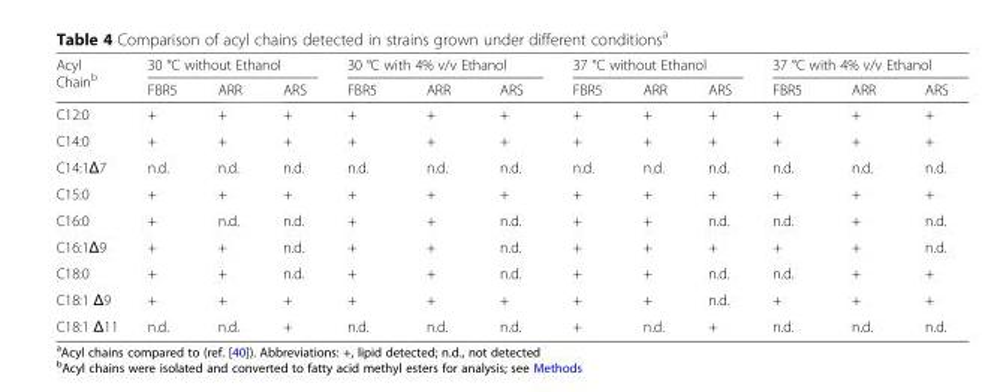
<table><thead><tr><td rowspan="2">Acyl Chain<sup>b</sup></td><td colspan="3">30 °C without Ethanol</td><td colspan="3">30 °C with 4% v/v Ethanol</td><td colspan="3">37 °C without Ethanol</td><td colspan="3">37 °C with 4% v/v Ethanol</td></tr><tr><td>FBR5</td><td>ARR</td><td>ARS</td><td>FBR5</td><td>ARR</td><td>ARS</td><td>FBR5</td><td>ARR</td><td>ARS</td><td>FBR5</td><td>ARR</td><td>ARS</td></tr></thead><tbody><tr><td>C12:0</td><td>+</td><td>+</td><td>+</td><td>+</td><td>+</td><td>+</td><td>+</td><td>+</td><td>+</td><td>+</td><td>+</td><td>+</td></tr><tr><td>C14:0</td><td>+</td><td>+</td><td>+</td><td>+</td><td>+</td><td>+</td><td>+</td><td>+</td><td>+</td><td>+</td><td>+</td><td>+</td></tr><tr><td>C14:1Δ7</td><td>n.d.</td><td>n.d.</td><td>n.d.</td><td>n.d.</td><td>n.d.</td><td>n.d.</td><td>n.d.</td><td>n.d.</td><td>n.d.</td><td>n.d.</td><td>n.d.</td><td>n.d.</td></tr><tr><td>C15:0</td><td>+</td><td>+</td><td>+</td><td>+</td><td>+</td><td>+</td><td>+</td><td>+</td><td>+</td><td>+</td><td>+</td><td>+</td></tr><tr><td>C16:0</td><td>+</td><td>n.d.</td><td>n.d.</td><td>+</td><td>+</td><td>n.d.</td><td>+</td><td>+</td><td>n.d.</td><td>n.d.</td><td>+</td><td>n.d.</td></tr><tr><td>C16:1Δ9</td><td>+</td><td>+</td><td>n.d.</td><td>+</td><td>+</td><td>n.d.</td><td>+</td><td>+</td><td>+</td><td>+</td><td>+</td><td>n.d.</td></tr><tr><td>C18:0</td><td>+</td><td>+</td><td>n.d.</td><td>+</td><td>+</td><td>n.d.</td><td>+</td><td>+</td><td>n.d.</td><td>n.d.</td><td>+</td><td>+</td></tr><tr><td>C18:1 Δ9</td><td>+</td><td>+</td><td>+</td><td>+</td><td>+</td><td>+</td><td>+</td><td>+</td><td>n.d.</td><td>+</td><td>+</td><td>+</td></tr><tr><td>C18:1 Δ11</td><td>n.d.</td><td>n.d.</td><td>+</td><td>n.d.</td><td>n.d.</td><td>n.d.</td><td>+</td><td>n.d.</td><td>+</td><td>n.d.</td><td>n.d.</td><td>n.d.</td></tr></tbody></table>